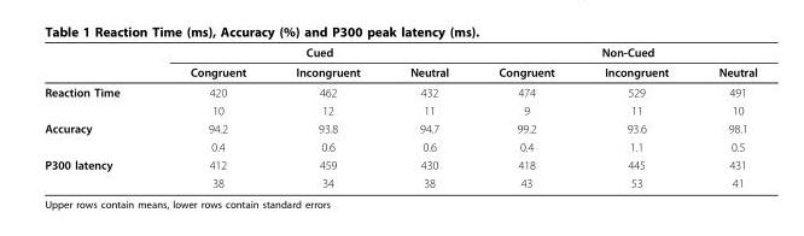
<table><thead><tr><td rowspan="2"></td><td colspan="3">Cued</td><td colspan="3">Non-Cued</td></tr><tr><td>Congruent</td><td>Incongruent</td><td>Neutral</td><td>Congruent</td><td>Incongruent</td><td>Neutral</td></tr></thead><tbody><tr><td rowspan="2">Reaction Time</td><td>420</td><td>462</td><td>432</td><td>474</td><td>529</td><td>491</td></tr><tr><td>10</td><td>12</td><td>11</td><td>9</td><td>11</td><td>10</td></tr><tr><td rowspan="2">Accuracy</td><td>94.2</td><td>93.8</td><td>94.7</td><td>99.2</td><td>93.6</td><td>98.1</td></tr><tr><td>0.4</td><td>0.6</td><td>0.6</td><td>0.4</td><td>1.1</td><td>0.5</td></tr><tr><td rowspan="2">P300 latency</td><td>412</td><td>459</td><td>430</td><td>418</td><td>445</td><td>431</td></tr><tr><td>38</td><td>34</td><td>38</td><td>43</td><td>53</td><td>41</td></tr></tbody></table>